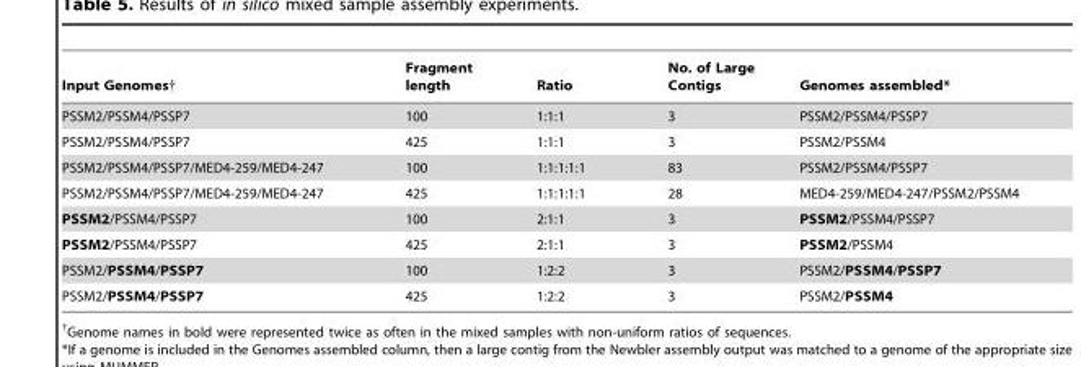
<table><thead><tr><td>Input Genomes†</td><td>Fragment length</td><td>Ratio</td><td>No. of Large Contigs</td><td>Genomes assembled*</td></tr></thead><tbody><tr><td>PSSM2/PSSM4/PSSP7</td><td>100</td><td>1:1:1</td><td>3</td><td>PSSM2/PSSM4/PSSP7</td></tr><tr><td>PSSM2/PSSM4/PSSP7</td><td>425</td><td>1:1:1</td><td>3</td><td>PSSM2/PSSM4</td></tr><tr><td>PSSM2/PSSM4/PSSP7/MED4-259/MED4-247</td><td>100</td><td>1:1:1:1:1</td><td>83</td><td>PSSM2/PSSM4/PSSP7</td></tr><tr><td>PSSM2/PSSM4/PSSP7/MED4-259/MED4-247</td><td>425</td><td>1:1:1:1:1</td><td>28</td><td>MED4-259/MED4-247/PSSM2/PSSM4</td></tr><tr><td>PSSM2/PSSM4/PSSP7</td><td>100</td><td>2:1:1</td><td>3</td><td>PSSM2/PSSM4/PSSP7</td></tr><tr><td>PSSM2/PSSM4/PSSP7</td><td>425</td><td>2:1:1</td><td>3</td><td>PSSM2/PSSM4</td></tr><tr><td>PSSM2/PSSM4/PSSP7</td><td>100</td><td>1:2:2</td><td>3</td><td>PSSM2/PSSM4/PSSP7</td></tr><tr><td>PSSM2/PSSM4/PSSP7</td><td>425</td><td>1:2:2</td><td>3</td><td>PSSM2/PSSM4</td></tr></tbody></table>